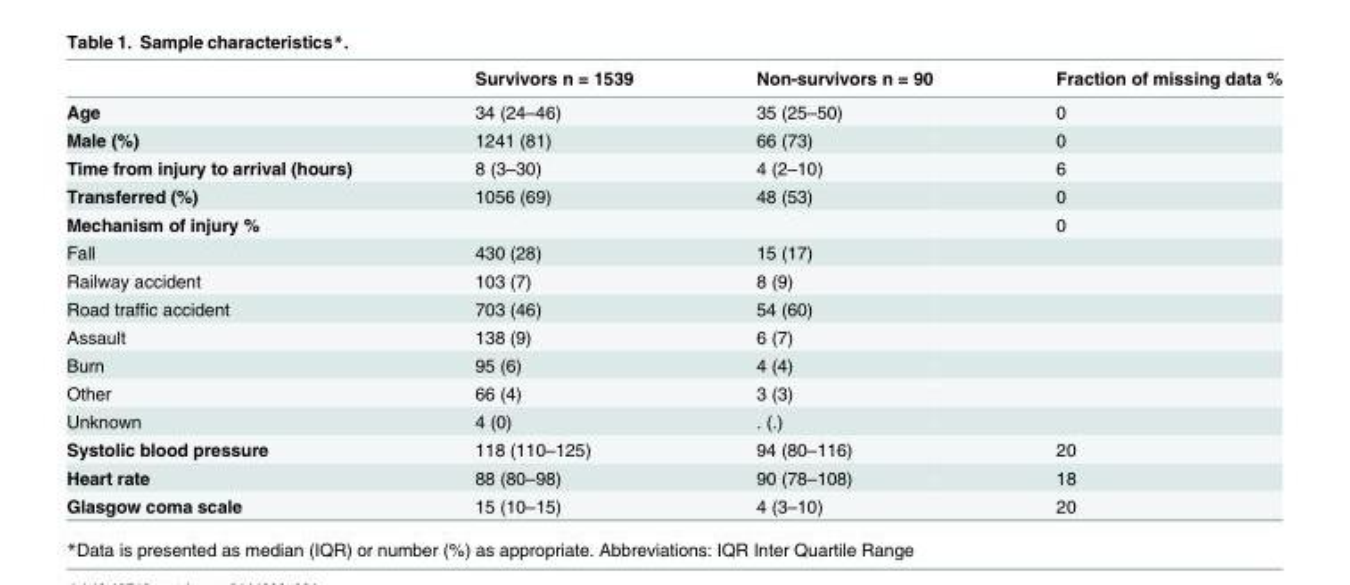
<table><thead><tr><td></td><td>Survivors n = 1539</td><td>Non-survivors n = 90</td><td>Fraction of missing data %</td></tr></thead><tbody><tr><td>Age</td><td>34 (24–46)</td><td>35 (25–50)</td><td>0</td></tr><tr><td>Male (%)</td><td>1241 (81)</td><td>66 (73)</td><td>0</td></tr><tr><td>Time from injury to arrival (hours)</td><td>8 (3–30)</td><td>4 (2–10)</td><td>6</td></tr><tr><td>Transferred (%)</td><td>1056 (69)</td><td>48 (53)</td><td>0</td></tr><tr><td>Mechanism of injury %</td><td></td><td></td><td>0</td></tr><tr><td>Fall</td><td>430 (28)</td><td>15 (17)</td><td></td></tr><tr><td>Railway accident</td><td>103 (7)</td><td>8 (9)</td><td></td></tr><tr><td>Road traffic accident</td><td>703 (46)</td><td>54 (60)</td><td></td></tr><tr><td>Assault</td><td>138 (9)</td><td>6 (7)</td><td></td></tr><tr><td>Burn</td><td>95 (6)</td><td>4 (4)</td><td></td></tr><tr><td>Other</td><td>66 (4)</td><td>3 (3)</td><td></td></tr><tr><td>Unknown</td><td>4 (0)</td><td>. (.)</td><td></td></tr><tr><td>Systolic blood pressure</td><td>118 (110–125)</td><td>94 (80–116)</td><td>20</td></tr><tr><td>Heart rate</td><td>88 (80–98)</td><td>90 (78–108)</td><td>18</td></tr><tr><td>Glasgow coma scale</td><td>15 (10–15)</td><td>4 (3–10)</td><td>20</td></tr></tbody></table>